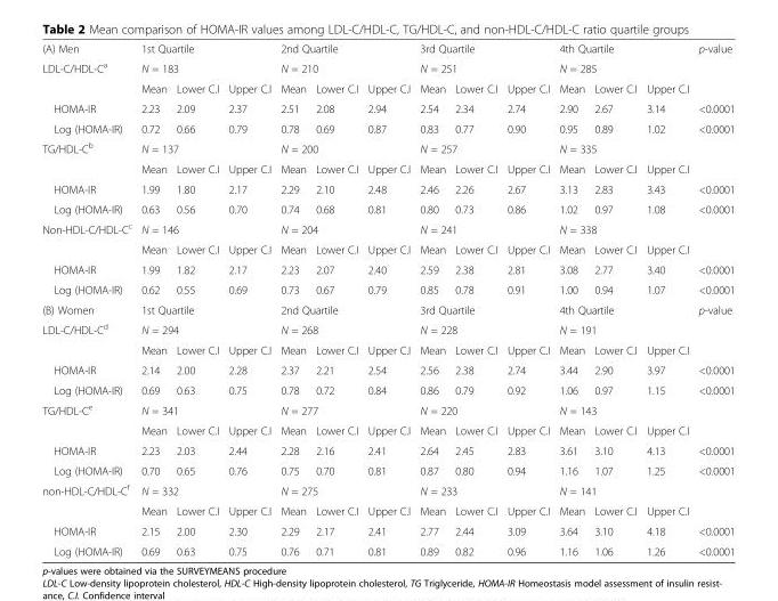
<table><tbody><tr><td>(A) Men</td><td colspan="3">1st Quartile</td><td colspan="3">2nd Quartile</td><td colspan="3">3rd Quartile</td><td colspan="3">4th Quartile</td><td>p-value</td></tr><tr><td rowspan="2">LDL-C/HDL-C<sup>a</sup></td><td colspan="3">N = 183</td><td colspan="3">N = 210</td><td colspan="3">N = 251</td><td colspan="3">N = 285</td><td rowspan="2"></td></tr><tr><td>Mean</td><td>Lower C.I</td><td>Upper C.I</td><td>Mean</td><td>Lower C.I</td><td>Upper C.I</td><td>Mean</td><td>Lower C.I</td><td>Upper C.I</td><td>Mean</td><td>Lower C.I</td><td>Upper C.I</td></tr><tr><td>HOMA-IR</td><td>2.23</td><td>2.09</td><td>2.37</td><td>2.51</td><td>2.08</td><td>2.94</td><td>2.54</td><td>2.34</td><td>2.74</td><td>2.90</td><td>2.67</td><td>3.14</td><td>&lt;0.0001</td></tr><tr><td>Log (HOMA-IR)</td><td>0.72</td><td>0.66</td><td>0.79</td><td>0.78</td><td>0.69</td><td>0.87</td><td>0.83</td><td>0.77</td><td>0.90</td><td>0.95</td><td>0.89</td><td>1.02</td><td>&lt;0.0001</td></tr><tr><td rowspan="2">TG/HDL-C<sup>b</sup></td><td colspan="3">N = 137</td><td colspan="3">N = 200</td><td colspan="3">N = 257</td><td colspan="3">N = 335</td><td rowspan="2"></td></tr><tr><td>Mean</td><td>Lower C.I</td><td>Upper C.I</td><td>Mean</td><td>Lower C.I</td><td>Upper C.I</td><td>Mean</td><td>Lower C.I</td><td>Upper C.I</td><td>Mean</td><td>Lower C.I</td><td>Upper C.I</td></tr><tr><td>HOMA-IR</td><td>1.99</td><td>1.80</td><td>2.17</td><td>2.29</td><td>2.10</td><td>2.48</td><td>2.46</td><td>2.26</td><td>2.67</td><td>3.13</td><td>2.83</td><td>3.43</td><td>&lt;0.0001</td></tr><tr><td>Log (HOMA-IR)</td><td>0.63</td><td>0.56</td><td>0.70</td><td>0.74</td><td>0.68</td><td>0.81</td><td>0.80</td><td>0.73</td><td>0.86</td><td>1.02</td><td>0.97</td><td>1.08</td><td>&lt;0.0001</td></tr><tr><td rowspan="2">Non-HDL-C/HDL-C<sup>c</sup></td><td colspan="3">N = 146</td><td colspan="3">N = 204</td><td colspan="3">N = 241</td><td colspan="3">N = 338</td><td rowspan="2"></td></tr><tr><td>Mean</td><td>Lower C.I</td><td>Upper C.I</td><td>Mean</td><td>Lower C.I</td><td>Upper C.I</td><td>Mean</td><td>Lower C.I</td><td>Upper C.I</td><td>Mean</td><td>Lower C.I</td><td>Upper C.I</td></tr><tr><td>HOMA-IR</td><td>1.99</td><td>1.82</td><td>2.17</td><td>2.23</td><td>2.07</td><td>2.40</td><td>2.59</td><td>2.38</td><td>2.81</td><td>3.08</td><td>2.77</td><td>3.40</td><td>&lt;0.0001</td></tr><tr><td>Log (HOMA-IR)</td><td>0.62</td><td>0.55</td><td>0.69</td><td>0.73</td><td>0.67</td><td>0.79</td><td>0.85</td><td>0.78</td><td>0.91</td><td>1.00</td><td>0.94</td><td>1.07</td><td>&lt;0.0001</td></tr><tr><td>(B) Women</td><td colspan="3">1st Quartile</td><td colspan="3">2nd Quartile</td><td colspan="3">3rd Quartile</td><td colspan="3">4th Quartile</td><td>p-value</td></tr><tr><td rowspan="2">LDL-C/HDL-C<sup>d</sup></td><td colspan="3">N = 294</td><td colspan="3">N = 268</td><td colspan="3">N = 228</td><td colspan="3">N = 191</td><td rowspan="2"></td></tr><tr><td>Mean</td><td>Lower C.I</td><td>Upper C.I</td><td>Mean</td><td>Lower C.I</td><td>Upper C.I</td><td>Mean</td><td>Lower C.I</td><td>Upper C.I</td><td>Mean</td><td>Lower C.I</td><td>Upper C.I</td></tr><tr><td>HOMA-IR</td><td>2.14</td><td>2.00</td><td>2.28</td><td>2.37</td><td>2.21</td><td>2.54</td><td>2.56</td><td>2.38</td><td>2.74</td><td>3.44</td><td>2.90</td><td>3.97</td><td>&lt;0.0001</td></tr><tr><td>Log (HOMA-IR)</td><td>0.69</td><td>0.63</td><td>0.75</td><td>0.78</td><td>0.72</td><td>0.84</td><td>0.86</td><td>0.79</td><td>0.92</td><td>1.06</td><td>0.97</td><td>1.15</td><td>&lt;0.0001</td></tr><tr><td rowspan="2">TG/HDL-C<sup>e</sup></td><td colspan="3">N = 341</td><td colspan="3">N = 277</td><td colspan="3">N = 220</td><td colspan="3">N = 143</td><td rowspan="2"></td></tr><tr><td>Mean</td><td>Lower C.I</td><td>Upper C.I</td><td>Mean</td><td>Lower C.I</td><td>Upper C.I</td><td>Mean</td><td>Lower C.I</td><td>Upper C.I</td><td>Mean</td><td>Lower C.I</td><td>Upper C.I</td></tr><tr><td>HOMA-IR</td><td>2.23</td><td>2.03</td><td>2.44</td><td>2.28</td><td>2.16</td><td>2.41</td><td>2.64</td><td>2.45</td><td>2.83</td><td>3.61</td><td>3.10</td><td>4.13</td><td>&lt;0.0001</td></tr><tr><td>Log (HOMA-IR)</td><td>0.70</td><td>0.65</td><td>0.76</td><td>0.75</td><td>0.70</td><td>0.81</td><td>0.87</td><td>0.80</td><td>0.94</td><td>1.16</td><td>1.07</td><td>1.25</td><td>&lt;0.0001</td></tr><tr><td rowspan="2">non-HDL-C/HDL-C<sup>f</sup></td><td colspan="3">N = 332</td><td colspan="3">N = 275</td><td colspan="3">N = 233</td><td colspan="3">N = 141</td><td rowspan="2"></td></tr><tr><td>Mean</td><td>Lower C.I</td><td>Upper C.I</td><td>Mean</td><td>Lower C.I</td><td>Upper C.I</td><td>Mean</td><td>Lower C.I</td><td>Upper C.I</td><td>Mean</td><td>Lower C.I</td><td>Upper C.I</td></tr><tr><td>HOMA-IR</td><td>2.15</td><td>2.00</td><td>2.30</td><td>2.29</td><td>2.17</td><td>2.41</td><td>2.77</td><td>2.44</td><td>3.09</td><td>3.64</td><td>3.10</td><td>4.18</td><td>&lt;0.0001</td></tr><tr><td>Log (HOMA-IR)</td><td>0.69</td><td>0.63</td><td>0.75</td><td>0.76</td><td>0.71</td><td>0.81</td><td>0.89</td><td>0.82</td><td>0.96</td><td>1.16</td><td>1.06</td><td>1.26</td><td>&lt;0.0001</td></tr></tbody></table>